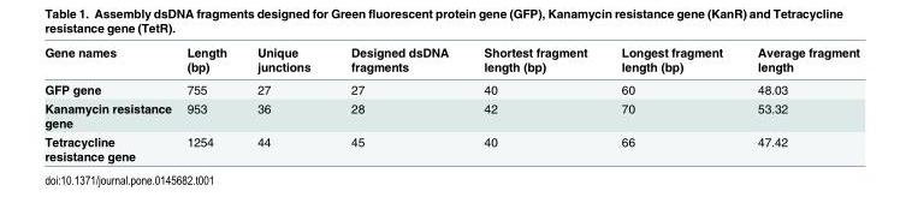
<table><thead><tr><td>Gene names</td><td>Length (bp)</td><td>Unique junctions</td><td>Designed dsDNA fragments</td><td>Shortest fragment length (bp)</td><td>Longest fragment length (bp)</td><td>Average fragment length</td></tr></thead><tbody><tr><td>GFP gene</td><td>755</td><td>27</td><td>27</td><td>40</td><td>60</td><td>48.03</td></tr><tr><td>Kanamycin resistance gene</td><td>953</td><td>36</td><td>28</td><td>42</td><td>70</td><td>53.32</td></tr><tr><td>Tetracycline resistance gene</td><td>1254</td><td>44</td><td>45</td><td>40</td><td>66</td><td>47.42</td></tr></tbody></table>